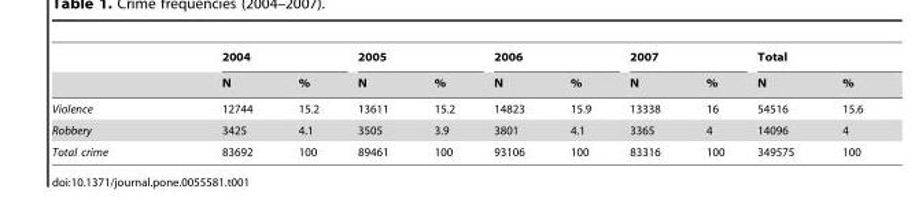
<table><thead><tr><td rowspan="2"></td><td colspan="2">2004</td><td colspan="2">2005</td><td colspan="2">2006</td><td colspan="2">2007</td><td colspan="2">Total</td></tr><tr><td>N</td><td>%</td><td>N</td><td>%</td><td>N</td><td>%</td><td>N</td><td>%</td><td>N</td><td>%</td></tr></thead><tbody><tr><td>Violence</td><td>12744</td><td>15.2</td><td>13611</td><td>15.2</td><td>14823</td><td>15.9</td><td>13338</td><td>16</td><td>54516</td><td>15.6</td></tr><tr><td>Robbery</td><td>3425</td><td>4.1</td><td>3505</td><td>3.9</td><td>3801</td><td>4.1</td><td>3365</td><td>4</td><td>14096</td><td>4</td></tr><tr><td>Total crime</td><td>83692</td><td>100</td><td>89461</td><td>100</td><td>93106</td><td>100</td><td>83316</td><td>100</td><td>349575</td><td>100</td></tr></tbody></table>